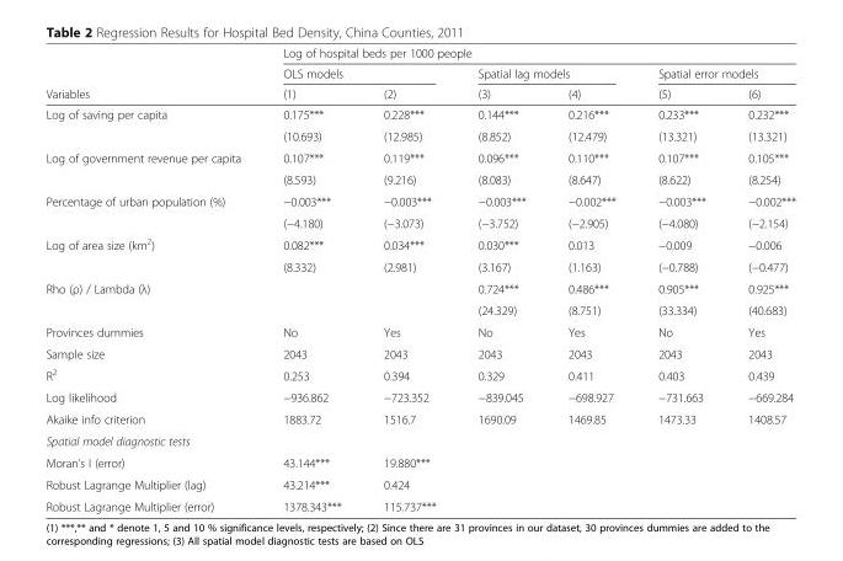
<table><thead><tr><td rowspan="3">Variables</td><td colspan="6">Log of hospital beds per 1000 people</td></tr><tr><td colspan="2">OLS models</td><td colspan="2">Spatial lag models</td><td colspan="2">Spatial error models</td></tr><tr><td>(1)</td><td>(2)</td><td>(3)</td><td>(4)</td><td>(5)</td><td>(6)</td></tr></thead><tbody><tr><td rowspan="2">Log of saving per capita</td><td>0.175***</td><td>0.228***</td><td>0.144***</td><td>0.216***</td><td>0.233***</td><td>0.232***</td></tr><tr><td>(10.693)</td><td>(12.985)</td><td>(8.852)</td><td>(12.479)</td><td>(13.321)</td><td>(13.321)</td></tr><tr><td rowspan="2">Log of government revenue per capita</td><td>0.107***</td><td>0.119***</td><td>0.096***</td><td>0.110***</td><td>0.107***</td><td>0.105***</td></tr><tr><td>(8.593)</td><td>(9.216)</td><td>(8.083)</td><td>(8.647)</td><td>(8.622)</td><td>(8.254)</td></tr><tr><td rowspan="2">Percentage of urban population (%)</td><td>−0.003***</td><td>−0.003***</td><td>−0.003***</td><td>−0.002***</td><td>−0.003***</td><td>−0.002***</td></tr><tr><td>(−4.180)</td><td>(−3.073)</td><td>(−3.752)</td><td>(−2.905)</td><td>(−4.080)</td><td>(−2.154)</td></tr><tr><td rowspan="2">Log of area size (km<sup>2</sup>)</td><td>0.082***</td><td>0.034***</td><td>0.030***</td><td>0.013</td><td>−0.009</td><td>−0.006</td></tr><tr><td>(8.332)</td><td>(2.981)</td><td>(3.167)</td><td>(1.163)</td><td>(−0.788)</td><td>(−0.477)</td></tr><tr><td rowspan="2">Rho (ρ) / Lambda (λ)</td><td></td><td></td><td>0.724***</td><td>0.486***</td><td>0.905***</td><td>0.925***</td></tr><tr><td></td><td></td><td>(24.329)</td><td>(8.751)</td><td>(33.334)</td><td>(40.683)</td></tr><tr><td>Provinces dummies</td><td>No</td><td>Yes</td><td>No</td><td>Yes</td><td>No</td><td>Yes</td></tr><tr><td>Sample size</td><td>2043</td><td>2043</td><td>2043</td><td>2043</td><td>2043</td><td>2043</td></tr><tr><td>R<sup>2</sup></td><td>0.253</td><td>0.394</td><td>0.329</td><td>0.411</td><td>0.403</td><td>0.439</td></tr><tr><td>Log likelihood</td><td>−936.862</td><td>−723.352</td><td>−839.045</td><td>−698.927</td><td>−731.663</td><td>−669.284</td></tr><tr><td>Akaike info criterion</td><td>1883.72</td><td>1516.7</td><td>1690.09</td><td>1469.85</td><td>1473.33</td><td>1408.57</td></tr><tr><td colspan="7">Spatial model diagnostic tests</td></tr><tr><td>Moran’s I (error)</td><td>43.144***</td><td>19.880***</td><td></td><td></td><td></td><td></td></tr><tr><td>Robust Lagrange Multiplier (lag)</td><td>43.214***</td><td>0.424</td><td></td><td></td><td></td><td></td></tr><tr><td>Robust Lagrange Multiplier (error)</td><td>1378.343***</td><td>115.737***</td><td></td><td></td><td></td><td></td></tr></tbody></table>